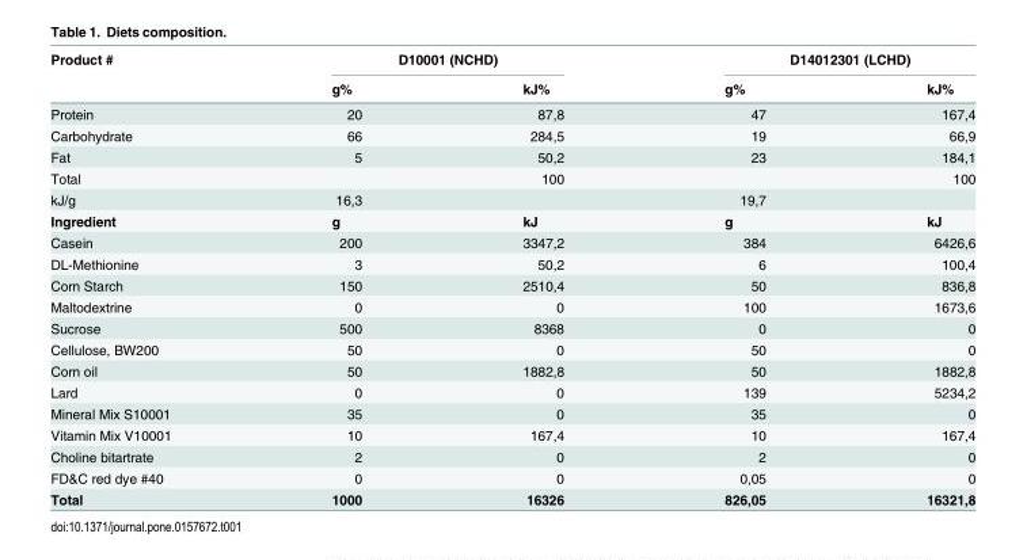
<table><thead><tr><td rowspan="2">Product #</td><td colspan="2">D10001 (NCHD)</td><td colspan="2">D14012301 (LCHD)</td></tr><tr><td>g%</td><td>kJ%</td><td>g%</td><td>kJ%</td></tr></thead><tbody><tr><td>Protein</td><td>20</td><td>87,8</td><td>47</td><td>167,4</td></tr><tr><td>Carbohydrate</td><td>66</td><td>284,5</td><td>19</td><td>66,9</td></tr><tr><td>Fat</td><td>5</td><td>50,2</td><td>23</td><td>184,1</td></tr><tr><td>Total</td><td></td><td>100</td><td></td><td>100</td></tr><tr><td>kJ/g</td><td>16,3</td><td></td><td>19,7</td><td></td></tr><tr><td>Ingredient</td><td>g</td><td>kJ</td><td>g</td><td>kJ</td></tr><tr><td>Casein</td><td>200</td><td>3347,2</td><td>384</td><td>6426,6</td></tr><tr><td>DL-Methionine</td><td>3</td><td>50,2</td><td>6</td><td>100,4</td></tr><tr><td>Corn Starch</td><td>150</td><td>2510,4</td><td>50</td><td>836,8</td></tr><tr><td>Maltodextrine</td><td>0</td><td>0</td><td>100</td><td>1673,6</td></tr><tr><td>Sucrose</td><td>500</td><td>8368</td><td>0</td><td>0</td></tr><tr><td>Cellulose, BW200</td><td>50</td><td>0</td><td>50</td><td>0</td></tr><tr><td>Corn oil</td><td>50</td><td>1882,8</td><td>50</td><td>1882,8</td></tr><tr><td>Lard</td><td>0</td><td>0</td><td>139</td><td>5234,2</td></tr><tr><td>Mineral Mix S10001</td><td>35</td><td>0</td><td>35</td><td>0</td></tr><tr><td>Vitamin Mix V10001</td><td>10</td><td>167,4</td><td>10</td><td>167,4</td></tr><tr><td>Choline bitartrate</td><td>2</td><td>0</td><td>2</td><td>0</td></tr><tr><td>FD&amp;C red dye #40</td><td>0</td><td>0</td><td>0,05</td><td>0</td></tr><tr><td>Total</td><td>1000</td><td>16326</td><td>826,05</td><td>16321,8</td></tr></tbody></table>